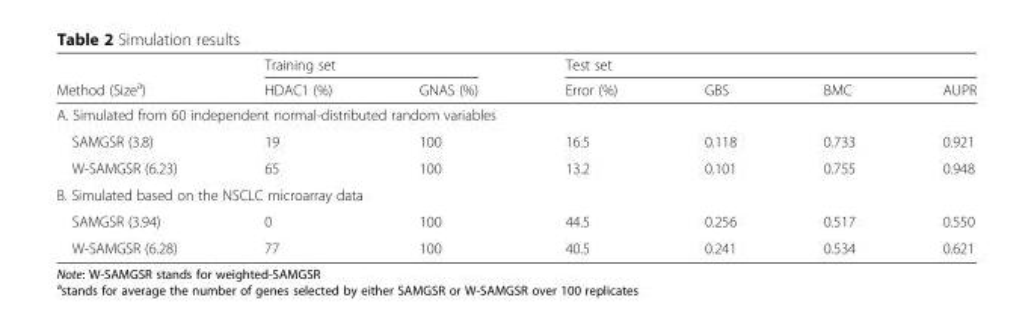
<table><thead><tr><td rowspan="2">Method (Size<sup>a</sup>)</td><td colspan="2">Training set</td><td colspan="4">Test set</td></tr><tr><td>HDAC1 (%)</td><td>GNAS (%)</td><td>Error (%)</td><td>GBS</td><td>BMC</td><td>AUPR</td></tr></thead><tbody><tr><td colspan="7">A. Simulated from 60 independent normal-distributed random variables</td></tr><tr><td>SAMGSR (3.8)</td><td>19</td><td>100</td><td>16.5</td><td>0.118</td><td>0.733</td><td>0.921</td></tr><tr><td>W-SAMGSR (6.23)</td><td>65</td><td>100</td><td>13.2</td><td>0.101</td><td>0.755</td><td>0.948</td></tr><tr><td colspan="7">B. Simulated based on the NSCLC microarray data</td></tr><tr><td>SAMGSR (3.94)</td><td>0</td><td>100</td><td>44.5</td><td>0.256</td><td>0.517</td><td>0.550</td></tr><tr><td>W-SAMGSR (6.28)</td><td>77</td><td>100</td><td>40.5</td><td>0.241</td><td>0.534</td><td>0.621</td></tr></tbody></table>